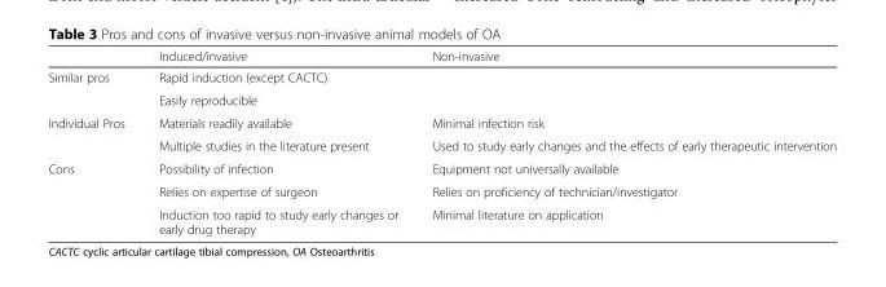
<table><thead><tr><td></td><td>Induced/invasive</td><td>Non-invasive</td></tr></thead><tbody><tr><td rowspan="2">Similar pros</td><td colspan="2">Rapid induction (except CACTC)</td></tr><tr><td colspan="2">Easily reproducible</td></tr><tr><td rowspan="2">Individual Pros</td><td>Materials readily available</td><td>Minimal infection risk</td></tr><tr><td>Multiple studies in the literature present</td><td>Used to study early changes and the effects of early therapeutic intervention</td></tr><tr><td rowspan="3">Cons</td><td>Possibility of infection</td><td>Equipment not universally available</td></tr><tr><td>Relies on expertise of surgeon</td><td>Relies on proficiency of technician/investigator</td></tr><tr><td>Induction too rapid to study early changes or early drug therapy</td><td>Minimal literature on application</td></tr></tbody></table>